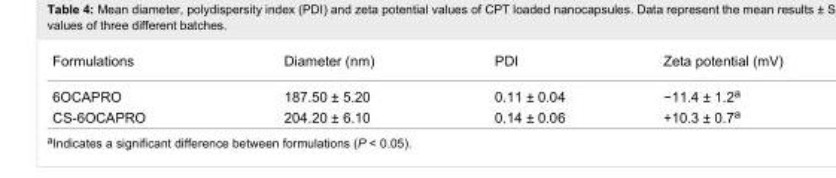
<table><tbody><tr><td>Formulations</td><td>Diameter (nm)</td><td>PDI</td><td>Zeta potential (mV)</td></tr><tr><td>6OCAPRO</td><td>187.50 ± 5.20</td><td>0.11 ± 0.04</td><td>−11.4 ± 1.2<sup>a</sup></td></tr><tr><td>CS-6OCAPRO</td><td>204.20 ± 6.10</td><td>0.14 ± 0.06</td><td>+10.3 ± 0.7<sup>a</sup></td></tr></tbody></table>